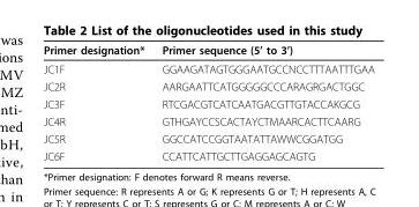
<table><thead><tr><td>Primer designation*</td><td>Primer sequence (5’ to 3’)</td></tr></thead><tbody><tr><td>JC1F</td><td>GGAAGATAGTGGGAATGCCNCCTTTAATTTGAA</td></tr><tr><td>JC2R</td><td>AARGAATTCATGGGGGCCCARAGRGACTGGC</td></tr><tr><td>JC3F</td><td>RTCGACGTCATCAATGACGTTGTACCAKGCG</td></tr><tr><td>JC4R</td><td>GTHGAYCCSCACTAYCTMAARCACTTCAARG</td></tr><tr><td>JC5R</td><td>GGCCATCCGGTAATATTAWWCGGATGG</td></tr><tr><td>JC6F</td><td>CCATTCATTGCTTGAGGAGCAGTG</td></tr></tbody></table>